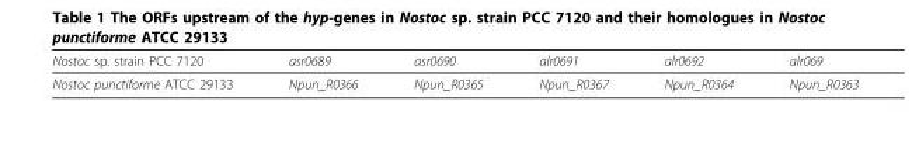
<table><thead><tr><td>Nostoc sp. strain PCC 7120</td><td>asr0689</td><td>asr0690</td><td>alr0691</td><td>alr0692</td><td>alr069</td></tr></thead><tbody><tr><td>Nostoc punctiforme ATCC 29133</td><td>Npun_R0366</td><td>Npun_R0365</td><td>Npun_R0367</td><td>Npun_R0364</td><td>Npun_R0363</td></tr></tbody></table>